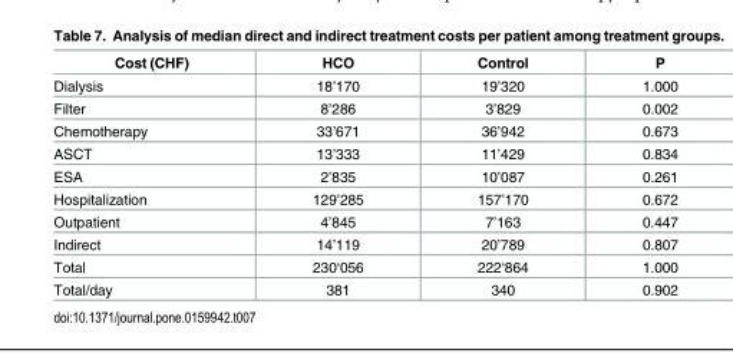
<table><thead><tr><td>Cost (CHF)</td><td>HCO</td><td>Control</td><td>P</td></tr></thead><tbody><tr><td>Dialysis</td><td>18’170</td><td>19’320</td><td>1.000</td></tr><tr><td>Filter</td><td>8’286</td><td>3’829</td><td>0.002</td></tr><tr><td>Chemotherapy</td><td>33’671</td><td>36’942</td><td>0.673</td></tr><tr><td>ASCT</td><td>13’333</td><td>11’429</td><td>0.834</td></tr><tr><td>ESA</td><td>2’835</td><td>10’087</td><td>0.261</td></tr><tr><td>Hospitalization</td><td>129’285</td><td>157’170</td><td>0.672</td></tr><tr><td>Outpatient</td><td>4’845</td><td>7’163</td><td>0.447</td></tr><tr><td>Indirect</td><td>14’119</td><td>20’789</td><td>0.807</td></tr><tr><td>Total</td><td>230‘056</td><td>222‘864</td><td>1.000</td></tr><tr><td>Total/day</td><td>381</td><td>340</td><td>0.902</td></tr></tbody></table>